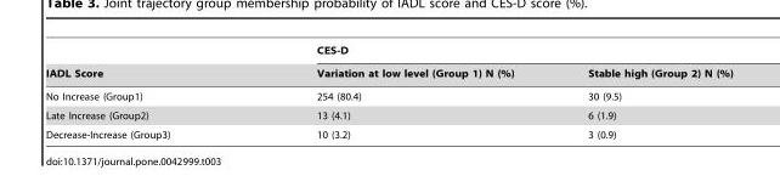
<table><thead><tr><td rowspan="2">IADL Score</td><td colspan="2">CES-D</td></tr><tr><td>Variation at low level (Group 1) N (%)</td><td>Stable high (Group 2) N (%)</td></tr></thead><tbody><tr><td>No Increase (Group1)</td><td>254 (80.4)</td><td>30 (9.5)</td></tr><tr><td>Late Increase (Group2)</td><td>13 (4.1)</td><td>6 (1.9)</td></tr><tr><td>Decrease-Increase (Group3)</td><td>10 (3.2)</td><td>3 (0.9)</td></tr></tbody></table>